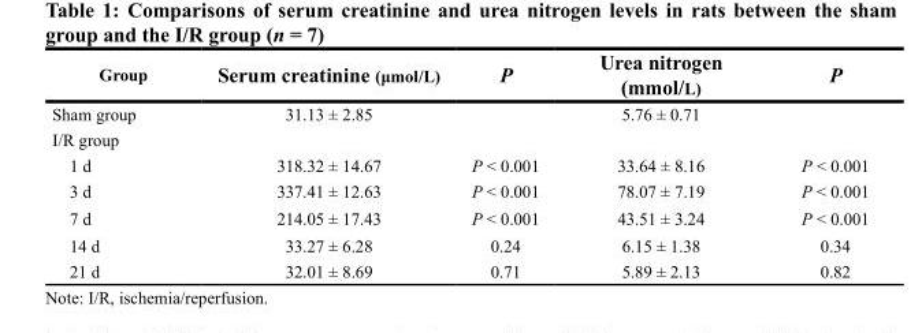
<table><thead><tr><td>Group</td><td>Serum creatinine (μmol/L)</td><td>P</td><td>Urea nitrogen (mmol/L)</td><td>P</td></tr></thead><tbody><tr><td>Sham group</td><td>31.13 ± 2.85</td><td></td><td>5.76 ± 0.71</td><td></td></tr><tr><td colspan="5">I/R group</td></tr><tr><td>1 d</td><td>318.32 ± 14.67</td><td>P &lt; 0.001</td><td>33.64 ± 8.16</td><td>P &lt; 0.001</td></tr><tr><td>3 d</td><td>337.41 ± 12.63</td><td>P &lt; 0.001</td><td>78.07 ± 7.19</td><td>P &lt; 0.001</td></tr><tr><td>7 d</td><td>214.05 ± 17.43</td><td>P &lt; 0.001</td><td>43.51 ± 3.24</td><td>P &lt; 0.001</td></tr><tr><td>14 d</td><td>33.27 ± 6.28</td><td>0.24</td><td>6.15 ± 1.38</td><td>0.34</td></tr><tr><td>21 d</td><td>32.01 ± 8.69</td><td>0.71</td><td>5.89 ± 2.13</td><td>0.82</td></tr></tbody></table>